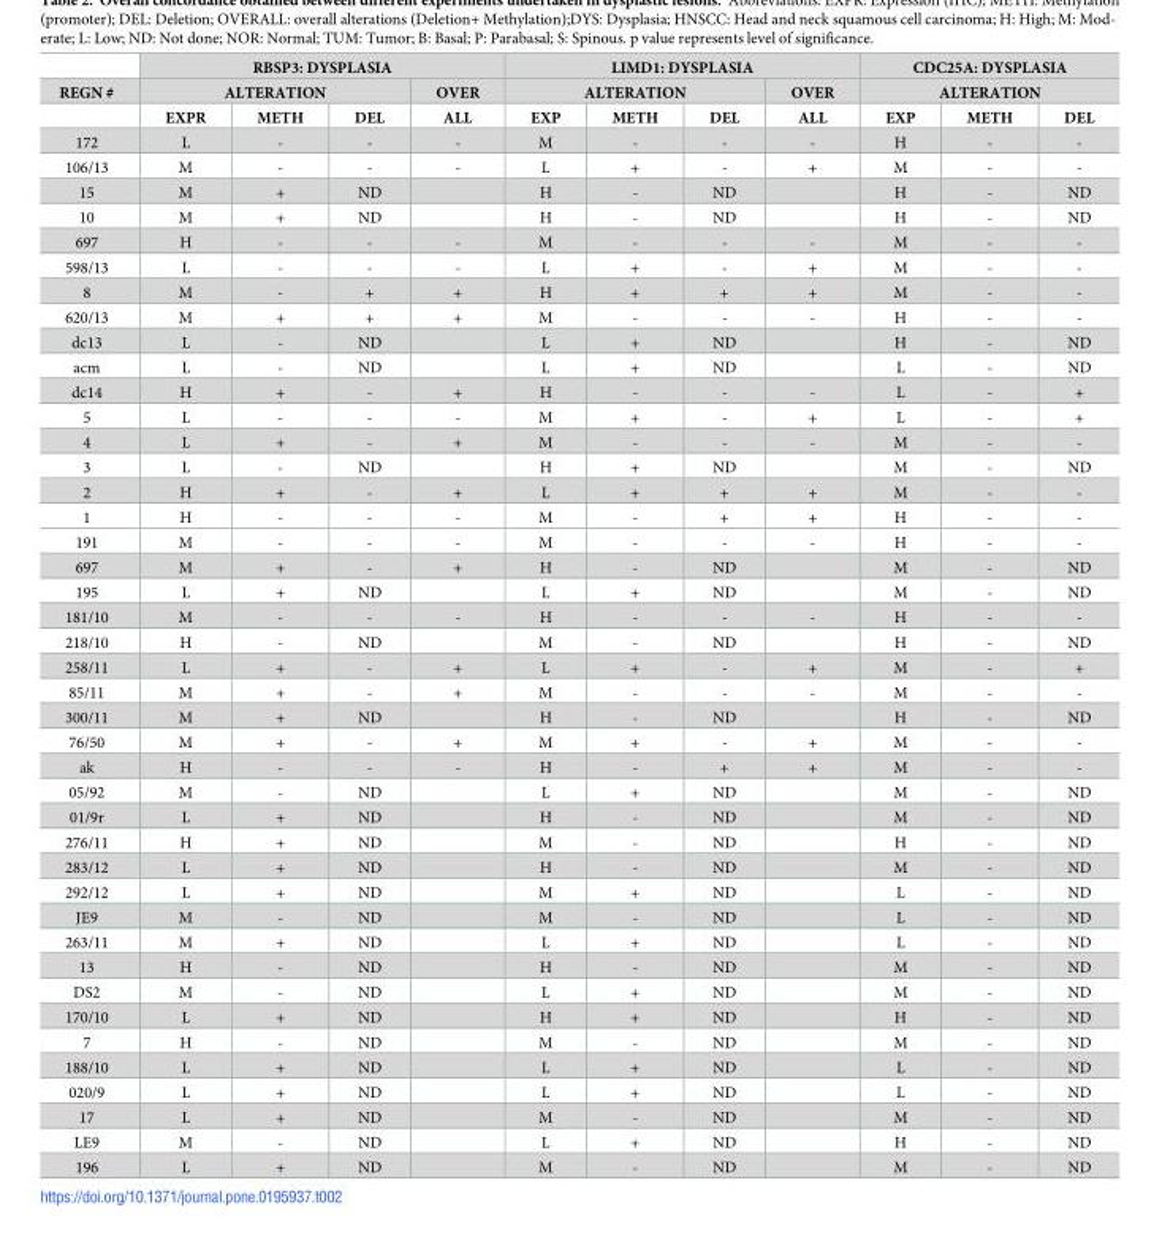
<table><thead><tr><td rowspan="3">REGN #</td><td colspan="4">RBSP3: DYSPLASIA</td><td colspan="4">LIMD1: DYSPLASIA</td><td rowspan="2" colspan="3">CDC25A: DYSPLASIA ALTERATION</td></tr><tr><td colspan="3">ALTERATION</td><td rowspan="2">OVER ALL</td><td colspan="3">ALTERATION</td><td rowspan="2">OVER ALL</td></tr><tr><td>EXPR</td><td>METH</td><td>DEL</td><td>EXP</td><td>METH</td><td>DEL</td><td>EXP</td><td>METH</td><td>DEL</td></tr></thead><tbody><tr><td>172</td><td>L</td><td>-</td><td>-</td><td>-</td><td>M</td><td>-</td><td>-</td><td>-</td><td>H</td><td>-</td><td>-</td></tr><tr><td>106/13</td><td>M</td><td>-</td><td>-</td><td>-</td><td>L</td><td>+</td><td>-</td><td>+</td><td>M</td><td>-</td><td>-</td></tr><tr><td>15</td><td>M</td><td>+</td><td>ND</td><td></td><td>H</td><td>-</td><td>ND</td><td></td><td>H</td><td>-</td><td>ND</td></tr><tr><td>10</td><td>M</td><td>+</td><td>ND</td><td></td><td>H</td><td>-</td><td>ND</td><td></td><td>H</td><td>-</td><td>ND</td></tr><tr><td>697</td><td>H</td><td>-</td><td>-</td><td>-</td><td>M</td><td>-</td><td>-</td><td>-</td><td>M</td><td>-</td><td>-</td></tr><tr><td>598/13</td><td>L</td><td>-</td><td>-</td><td>-</td><td>L</td><td>+</td><td>-</td><td>+</td><td>M</td><td>-</td><td>-</td></tr><tr><td>8</td><td>M</td><td>-</td><td>+</td><td>+</td><td>H</td><td>+</td><td>+</td><td>+</td><td>M</td><td>-</td><td>-</td></tr><tr><td>620/13</td><td>M</td><td>+</td><td>+</td><td>+</td><td>M</td><td>-</td><td>-</td><td>-</td><td>H</td><td>-</td><td>-</td></tr><tr><td>dc13</td><td>L</td><td>-</td><td>ND</td><td></td><td>L</td><td>+</td><td>ND</td><td></td><td>H</td><td>-</td><td>ND</td></tr><tr><td>acm</td><td>L</td><td>-</td><td>ND</td><td></td><td>L</td><td>+</td><td>ND</td><td></td><td>L</td><td>-</td><td>ND</td></tr><tr><td>dc14</td><td>H</td><td>+</td><td>-</td><td>+</td><td>H</td><td>-</td><td>-</td><td>-</td><td>L</td><td>-</td><td>+</td></tr><tr><td>5</td><td>L</td><td>-</td><td>-</td><td>-</td><td>M</td><td>+</td><td>-</td><td>+</td><td>L</td><td>-</td><td>+</td></tr><tr><td>4</td><td>L</td><td>+</td><td>-</td><td>+</td><td>M</td><td>-</td><td>-</td><td>-</td><td>M</td><td>-</td><td>-</td></tr><tr><td>3</td><td>L</td><td>-</td><td>ND</td><td></td><td>H</td><td>+</td><td>ND</td><td></td><td>M</td><td>-</td><td>ND</td></tr><tr><td>2</td><td>H</td><td>+</td><td>-</td><td>+</td><td>L</td><td>+</td><td>+</td><td>+</td><td>M</td><td>-</td><td>-</td></tr><tr><td>1</td><td>H</td><td>-</td><td>-</td><td>-</td><td>M</td><td>-</td><td>+</td><td>+</td><td>H</td><td>-</td><td>-</td></tr><tr><td>191</td><td>M</td><td>-</td><td>-</td><td>-</td><td>M</td><td>-</td><td>-</td><td>-</td><td>H</td><td>-</td><td>-</td></tr><tr><td>697</td><td>M</td><td>+</td><td>-</td><td>+</td><td>H</td><td>-</td><td>ND</td><td></td><td>M</td><td>-</td><td>ND</td></tr><tr><td>195</td><td>L</td><td>+</td><td>ND</td><td></td><td>L</td><td>+</td><td>ND</td><td></td><td>M</td><td>-</td><td>ND</td></tr><tr><td>181/10</td><td>M</td><td>-</td><td>-</td><td>-</td><td>H</td><td>-</td><td>-</td><td>-</td><td>H</td><td>-</td><td>-</td></tr><tr><td>218/10</td><td>H</td><td>-</td><td>ND</td><td></td><td>M</td><td>-</td><td>ND</td><td></td><td>H</td><td>-</td><td>ND</td></tr><tr><td>258/11</td><td>L</td><td>+</td><td>-</td><td>+</td><td>L</td><td>+</td><td>-</td><td>+</td><td>M</td><td>-</td><td>+</td></tr><tr><td>85/11</td><td>M</td><td>+</td><td>-</td><td>+</td><td>M</td><td>-</td><td>-</td><td>-</td><td>M</td><td>-</td><td>-</td></tr><tr><td>300/11</td><td>M</td><td>+</td><td>ND</td><td></td><td>H</td><td>-</td><td>ND</td><td></td><td>H</td><td>-</td><td>ND</td></tr><tr><td>76/50</td><td>M</td><td>+</td><td>-</td><td>+</td><td>M</td><td>+</td><td>-</td><td>+</td><td>M</td><td>-</td><td>-</td></tr><tr><td>ak</td><td>H</td><td>-</td><td>-</td><td>-</td><td>H</td><td>-</td><td>+</td><td>+</td><td>M</td><td>-</td><td>-</td></tr><tr><td>05/92</td><td>M</td><td>-</td><td>ND</td><td></td><td>L</td><td>+</td><td>ND</td><td></td><td>M</td><td>-</td><td>ND</td></tr><tr><td>01/9r</td><td>L</td><td>+</td><td>ND</td><td></td><td>H</td><td>-</td><td>ND</td><td></td><td>M</td><td>-</td><td>ND</td></tr><tr><td>276/11</td><td>H</td><td>+</td><td>ND</td><td></td><td>M</td><td>-</td><td>ND</td><td></td><td>H</td><td>-</td><td>ND</td></tr><tr><td>283/12</td><td>L</td><td>+</td><td>ND</td><td></td><td>H</td><td>-</td><td>ND</td><td></td><td>M</td><td>-</td><td>ND</td></tr><tr><td>292/12</td><td>L</td><td>+</td><td>ND</td><td></td><td>M</td><td>+</td><td>ND</td><td></td><td>L</td><td>-</td><td>ND</td></tr><tr><td>JE9</td><td>M</td><td>-</td><td>ND</td><td></td><td>M</td><td>-</td><td>ND</td><td></td><td>L</td><td>-</td><td>ND</td></tr><tr><td>263/11</td><td>M</td><td>+</td><td>ND</td><td></td><td>L</td><td>+</td><td>ND</td><td></td><td>L</td><td>-</td><td>ND</td></tr><tr><td>13</td><td>H</td><td>-</td><td>ND</td><td></td><td>H</td><td>-</td><td>ND</td><td></td><td>M</td><td>-</td><td>ND</td></tr><tr><td>DS2</td><td>M</td><td>-</td><td>ND</td><td></td><td>L</td><td>+</td><td>ND</td><td></td><td>M</td><td>-</td><td>ND</td></tr><tr><td>170/10</td><td>L</td><td>+</td><td>ND</td><td></td><td>H</td><td>+</td><td>ND</td><td></td><td>H</td><td>-</td><td>ND</td></tr><tr><td>7</td><td>H</td><td>-</td><td>ND</td><td></td><td>M</td><td>-</td><td>ND</td><td></td><td>M</td><td>-</td><td>ND</td></tr><tr><td>188/10</td><td>L</td><td>+</td><td>ND</td><td></td><td>L</td><td>+</td><td>ND</td><td></td><td>L</td><td>-</td><td>ND</td></tr><tr><td>020/9</td><td>L</td><td>+</td><td>ND</td><td></td><td>L</td><td>+</td><td>ND</td><td></td><td>L</td><td>-</td><td>ND</td></tr><tr><td>17</td><td>L</td><td>+</td><td>ND</td><td></td><td>M</td><td>-</td><td>ND</td><td></td><td>M</td><td>-</td><td>ND</td></tr><tr><td>LE9</td><td>M</td><td>-</td><td>ND</td><td></td><td>L</td><td>+</td><td>ND</td><td></td><td>H</td><td>-</td><td>ND</td></tr><tr><td>196</td><td>L</td><td>+</td><td>ND</td><td></td><td>M</td><td>-</td><td>ND</td><td></td><td>M</td><td>-</td><td>ND</td></tr></tbody></table>